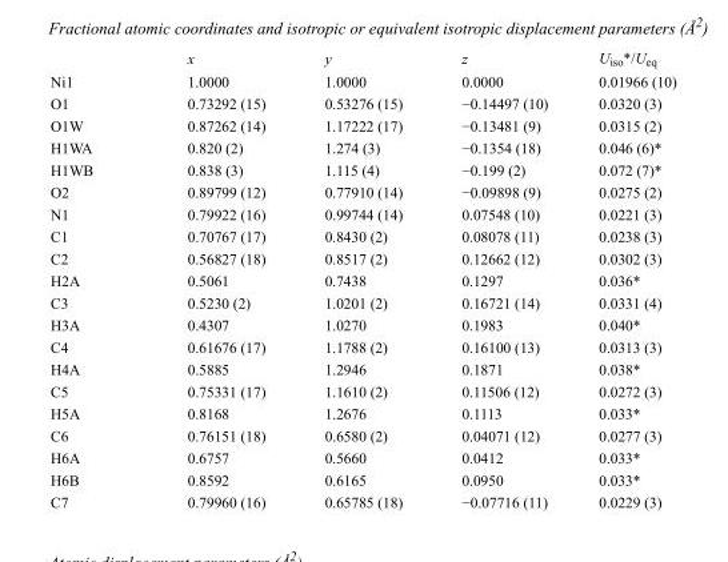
<table><thead><tr><td></td><td>x</td><td>y</td><td>z</td><td>U<sub>iso</sub>*/U<sub>eq</sub></td></tr></thead><tbody><tr><td>Ni1</td><td>1.0000</td><td>1.0000</td><td>0.0000</td><td>0.01966 (10)</td></tr><tr><td>O1</td><td>0.73292 (15)</td><td>0.53276 (15)</td><td>−0.14497 (10)</td><td>0.0320 (3)</td></tr><tr><td>O1W</td><td>0.87262 (14)</td><td>1.17222 (17)</td><td>−0.13481 (9)</td><td>0.0315 (2)</td></tr><tr><td>H1WA</td><td>0.820 (2)</td><td>1.274 (3)</td><td>−0.1354 (18)</td><td>0.046 (6)*</td></tr><tr><td>H1WB</td><td>0.838 (3)</td><td>1.115 (4)</td><td>−0.199 (2)</td><td>0.072 (7)*</td></tr><tr><td>O2</td><td>0.89799 (12)</td><td>0.77910 (14)</td><td>−0.09898 (9)</td><td>0.0275 (2)</td></tr><tr><td>N1</td><td>0.79922 (16)</td><td>0.99744 (14)</td><td>0.07548 (10)</td><td>0.0221 (3)</td></tr><tr><td>C1</td><td>0.70767 (17)</td><td>0.8430 (2)</td><td>0.08078 (11)</td><td>0.0238 (3)</td></tr><tr><td>C2</td><td>0.56827 (18)</td><td>0.8517 (2)</td><td>0.12662 (12)</td><td>0.0302 (3)</td></tr><tr><td>H2A</td><td>0.5061</td><td>0.7438</td><td>0.1297</td><td>0.036*</td></tr><tr><td>C3</td><td>0.5230 (2)</td><td>1.0201 (2)</td><td>0.16721 (14)</td><td>0.0331 (4)</td></tr><tr><td>H3A</td><td>0.4307</td><td>1.0270</td><td>0.1983</td><td>0.040*</td></tr><tr><td>C4</td><td>0.61676 (17)</td><td>1.1788 (2)</td><td>0.16100 (13)</td><td>0.0313 (3)</td></tr><tr><td>H4A</td><td>0.5885</td><td>1.2946</td><td>0.1871</td><td>0.038*</td></tr><tr><td>C5</td><td>0.75331 (17)</td><td>1.1610 (2)</td><td>0.11506 (12)</td><td>0.0272 (3)</td></tr><tr><td>H5A</td><td>0.8168</td><td>1.2676</td><td>0.1113</td><td>0.033*</td></tr><tr><td>C6</td><td>0.76151 (18)</td><td>0.6580 (2)</td><td>0.04071 (12)</td><td>0.0277 (3)</td></tr><tr><td>H6A</td><td>0.6757</td><td>0.5660</td><td>0.0412</td><td>0.033*</td></tr><tr><td>H6B</td><td>0.8592</td><td>0.6165</td><td>0.0950</td><td>0.033*</td></tr><tr><td>C7</td><td>0.79960 (16)</td><td>0.65785 (18)</td><td>−0.07716 (11)</td><td>0.0229 (3)</td></tr></tbody></table>